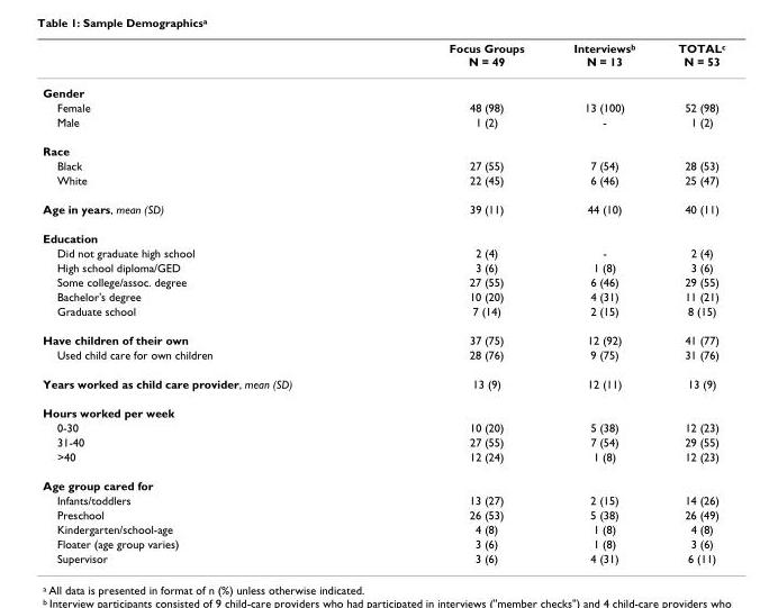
<table><thead><tr><td></td><td>Focus Groups N = 49</td><td>Interviews<sup>b</sup> N = 13</td><td>TOTAL<sup>c</sup> N = 53</td></tr></thead><tbody><tr><td colspan="4">Gender</td></tr><tr><td>Female</td><td>48 (98)</td><td>13 (100)</td><td>52 (98)</td></tr><tr><td>Male</td><td>1 (2)</td><td>-</td><td>1 (2)</td></tr><tr><td colspan="4">Race</td></tr><tr><td>Black</td><td>27 (55)</td><td>7 (54)</td><td>28 (53)</td></tr><tr><td>White</td><td>22 (45)</td><td>6 (46)</td><td>25 (47)</td></tr><tr><td>Age in years, mean (SD)</td><td>39 (11)</td><td>44 (10)</td><td>40 (11)</td></tr><tr><td colspan="4">Education</td></tr><tr><td>Did not graduate high school</td><td>2 (4)</td><td>-</td><td>2 (4)</td></tr><tr><td>High school diploma/GED</td><td>3 (6)</td><td>1 (8)</td><td>3 (6)</td></tr><tr><td>Some college/assoc. degree</td><td>27 (55)</td><td>6 (46)</td><td>29 (55)</td></tr><tr><td>Bachelor&#x27;s degree</td><td>10 (20)</td><td>4 (31)</td><td>11 (21)</td></tr><tr><td>Graduate school</td><td>7 (14)</td><td>2 (15)</td><td>8 (15)</td></tr><tr><td>Have children of their own</td><td>37 (75)</td><td>12 (92)</td><td>41 (77)</td></tr><tr><td>Used child care for own children</td><td>28 (76)</td><td>9 (75)</td><td>31 (76)</td></tr><tr><td>Years worked as child care provider, mean (SD)</td><td>13 (9)</td><td>12 (11)</td><td>13 (9)</td></tr><tr><td colspan="4">Hours worked per week</td></tr><tr><td>0-30</td><td>10 (20)</td><td>5 (38)</td><td>12 (23)</td></tr><tr><td>31-40</td><td>27 (55)</td><td>7 (54)</td><td>29 (55)</td></tr><tr><td>&gt;40</td><td>12 (24)</td><td>1 (8)</td><td>12 (23)</td></tr><tr><td colspan="4">Age group cared for</td></tr><tr><td>Infants/toddlers</td><td>13 (27)</td><td>2 (15)</td><td>14 (26)</td></tr><tr><td>Preschool</td><td>26 (53)</td><td>5 (38)</td><td>26 (49)</td></tr><tr><td>Kindergarten/school-age</td><td>4 (8)</td><td>1 (8)</td><td>4 (8)</td></tr><tr><td>Floater (age group varies)</td><td>3 (6)</td><td>1 (8)</td><td>3 (6)</td></tr><tr><td>Supervisor</td><td>3 (6)</td><td>4 (31)</td><td>6 (11)</td></tr></tbody></table>